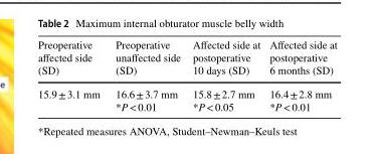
<table><thead><tr><td>Preoperative affected side (SD)</td><td>Preoperative unaffected side (SD)</td><td>Affected side at postoperative 10 days (SD)</td><td>Affected side at postoperative 6 months (SD)</td></tr></thead><tbody><tr><td>15.9 ± 3.1 mm</td><td>16.6 ± 3.7 mm *P &lt; 0.01</td><td>15.8 ± 2.7 mm *P &lt; 0.05</td><td>16.4 ± 2.8 mm *P &lt; 0.01</td></tr></tbody></table>